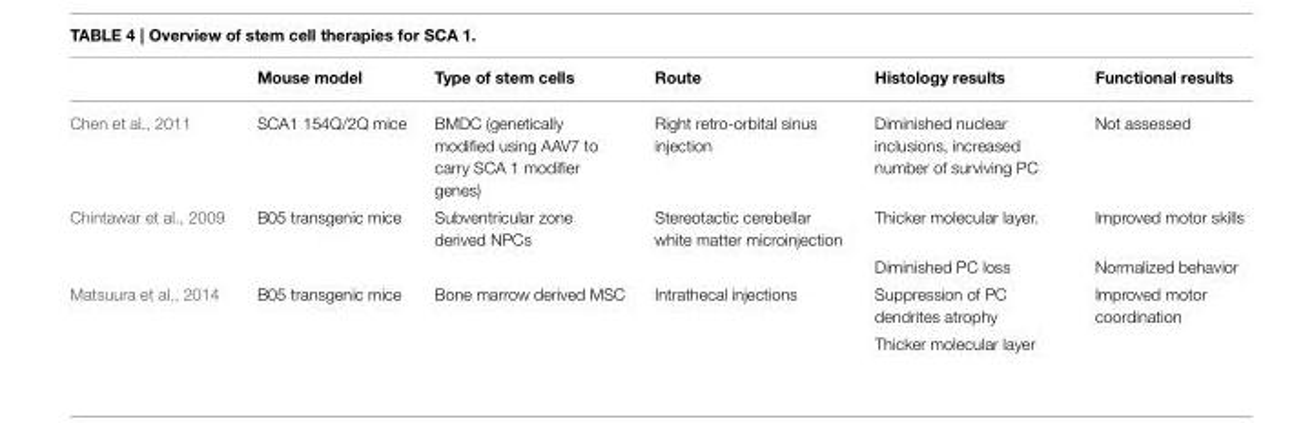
<table><thead><tr><td></td><td>Mouse model</td><td>Type of stem cells</td><td>Route</td><td>Histology results</td><td>Functional results</td></tr></thead><tbody><tr><td>Chen et al., 2011</td><td>SCA1 154Q/2Q mice</td><td>BMDC (genetically modified using AAV7 to carry SCA 1 modifier genes)</td><td>Right retro-orbital sinus injection</td><td>Diminished nuclear inclusions, increased number of surviving PC</td><td>Not assessed</td></tr><tr><td rowspan="2">Chintawar et al., 2009</td><td>B05 transgenic mice</td><td>Subventricular zone derived NPCs</td><td>Stereotactic cerebellar white matter microinjection</td><td>Thicker molecular layer.</td><td>Improved motor skills</td></tr><tr><td></td><td></td><td></td><td>Diminished PC loss</td><td>Normalized behavior</td></tr><tr><td rowspan="2">Matsuura et al., 2014</td><td>B05 transgenic mice</td><td>Bone marrow derived MSC</td><td>Intrathecal injections</td><td>Suppression of PC dendrites atrophy</td><td>Improved motor coordination</td></tr><tr><td></td><td></td><td></td><td>Thicker molecular layer</td><td></td></tr></tbody></table>